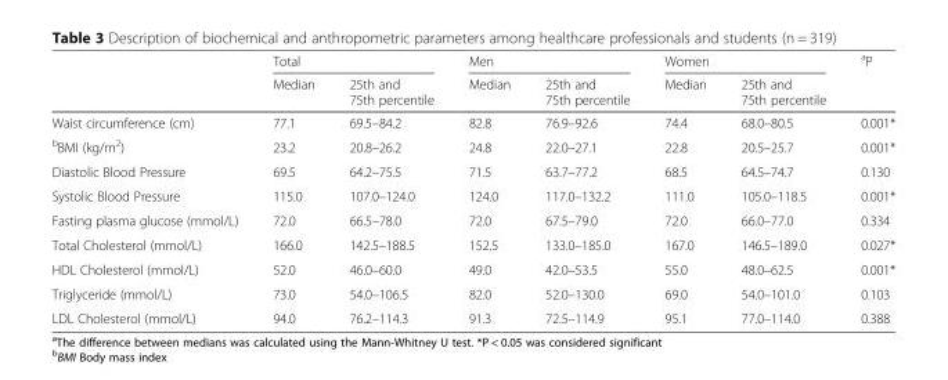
<table><thead><tr><td rowspan="2"></td><td colspan="2">Total</td><td colspan="2">Men</td><td colspan="2">Women</td><td rowspan="2"><sup>a</sup>P</td></tr><tr><td>Median</td><td>25th and 75th percentile</td><td>Median</td><td>25th and 75th percentile</td><td>Median</td><td>25th and 75th percentile</td></tr></thead><tbody><tr><td>Waist circumference (cm)</td><td>77.1</td><td>69.5–84.2</td><td>82.8</td><td>76.9–92.6</td><td>74.4</td><td>68.0–80.5</td><td>0.001*</td></tr><tr><td><sup>b</sup>BMI (kg/m<sup>2</sup>)</td><td>23.2</td><td>20.8–26.2</td><td>24.8</td><td>22.0–27.1</td><td>22.8</td><td>20.5–25.7</td><td>0.001*</td></tr><tr><td>Diastolic Blood Pressure</td><td>69.5</td><td>64.2–75.5</td><td>71.5</td><td>63.7–77.2</td><td>68.5</td><td>64.5–74.7</td><td>0.130</td></tr><tr><td>Systolic Blood Pressure</td><td>115.0</td><td>107.0–124.0</td><td>124.0</td><td>117.0–132.2</td><td>111.0</td><td>105.0–118.5</td><td>0.001*</td></tr><tr><td>Fasting plasma glucose (mmol/L)</td><td>72.0</td><td>66.5–78.0</td><td>72.0</td><td>67.5–79.0</td><td>72.0</td><td>66.0–77.0</td><td>0.334</td></tr><tr><td>Total Cholesterol (mmol/L)</td><td>166.0</td><td>142.5–188.5</td><td>152.5</td><td>133.0–185.0</td><td>167.0</td><td>146.5–189.0</td><td>0.027*</td></tr><tr><td>HDL Cholesterol (mmol/L)</td><td>52.0</td><td>46.0–60.0</td><td>49.0</td><td>42.0–53.5</td><td>55.0</td><td>48.0–62.5</td><td>0.001*</td></tr><tr><td>Triglyceride (mmol/L)</td><td>73.0</td><td>54.0–106.5</td><td>82.0</td><td>52.0–130.0</td><td>69.0</td><td>54.0–101.0</td><td>0.103</td></tr><tr><td>LDL Cholesterol (mmol/L)</td><td>94.0</td><td>76.2–114.3</td><td>91.3</td><td>72.5–114.9</td><td>95.1</td><td>77.0–114.0</td><td>0.388</td></tr></tbody></table>